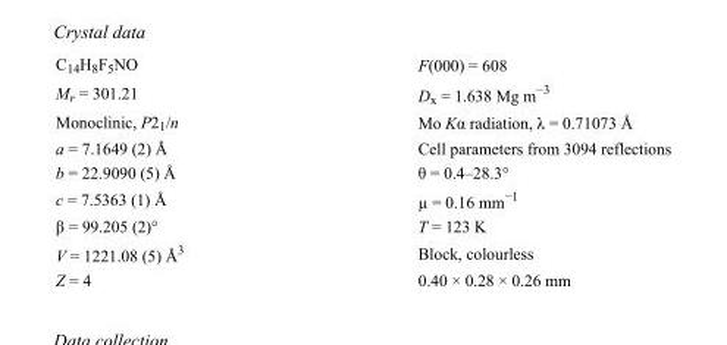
<table><tbody><tr><td>C<sub>14</sub>H<sub>8</sub>F<sub>5</sub>NO</td><td>F(000) = 608</td></tr><tr><td>M<sub>r</sub> = 301.21</td><td>D<sub>x</sub> = 1.638 Mg m<sup>−3</sup></td></tr><tr><td>Monoclinic, P2<sub>1</sub>/n</td><td>Mo Kα radiation, λ = 0.71073 Å</td></tr><tr><td>a = 7.1649 (2) Å</td><td>Cell parameters from 3094 reflections</td></tr><tr><td>b = 22.9090 (5) Å</td><td>θ = 0.4–28.3°</td></tr><tr><td>c = 7.5363 (1) Å</td><td>µ = 0.16 mm<sup>−1</sup></td></tr><tr><td>β = 99.205 (2)°</td><td>T = 123 K</td></tr><tr><td>V = 1221.08 (5) Å<sup>3</sup></td><td>Block, colourless</td></tr><tr><td>Z = 4</td><td>0.40 × 0.28 × 0.26 mm</td></tr></tbody></table>